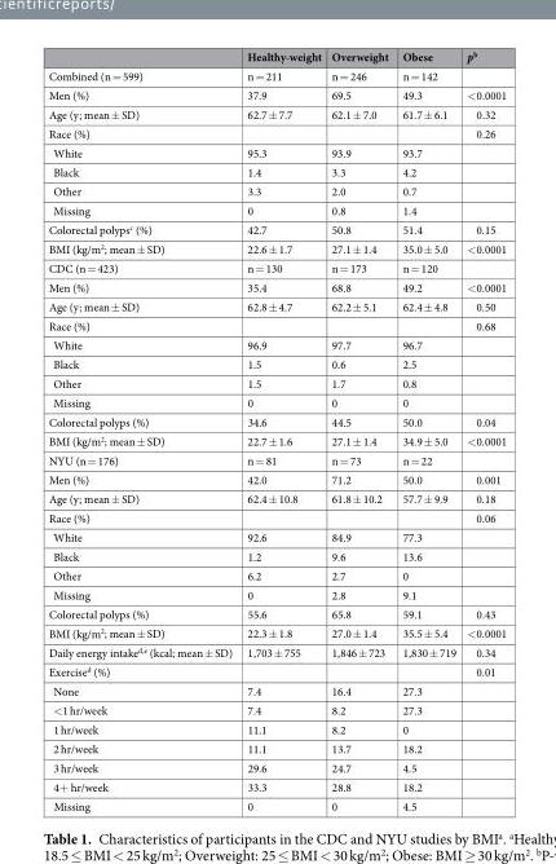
<table><thead><tr><td></td><td>Healthy-weight</td><td>Overweight</td><td>Obese</td><td>p<sup>b</sup></td></tr></thead><tbody><tr><td>Combined (n = 599)</td><td>n = 211</td><td>n = 246</td><td>n = 142</td><td></td></tr><tr><td>Men (%)</td><td>37.9</td><td>69.5</td><td>49.3</td><td>&lt;0.0001</td></tr><tr><td>Age (y; mean ± SD)</td><td>62.7 ± 7.7</td><td>62.1 ± 7.0</td><td>61.7 ± 6.1</td><td>0.32</td></tr><tr><td>Race (%)</td><td></td><td></td><td></td><td>0.26</td></tr><tr><td>White</td><td>95.3</td><td>93.9</td><td>93.7</td><td></td></tr><tr><td>Black</td><td>1.4</td><td>3.3</td><td>4.2</td><td></td></tr><tr><td>Other</td><td>3.3</td><td>2.0</td><td>0.7</td><td></td></tr><tr><td>Missing</td><td>0</td><td>0.8</td><td>1.4</td><td></td></tr><tr><td>Colorectal polyps<sup>c</sup> (%)</td><td>42.7</td><td>50.8</td><td>51.4</td><td>0.15</td></tr><tr><td>BMI (kg/m<sup>2</sup>; mean ± SD)</td><td>22.6 ± 1.7</td><td>27.1 ± 1.4</td><td>35.0 ± 5.0</td><td>&lt;0.0001</td></tr><tr><td>CDC (n = 423)</td><td>n = 130</td><td>n = 173</td><td>n = 120</td><td></td></tr><tr><td>Men (%)</td><td>35.4</td><td>68.8</td><td>49.2</td><td>&lt;0.0001</td></tr><tr><td>Age (y; mean ± SD)</td><td>62.8 ± 4.7</td><td>62.2 ± 5.1</td><td>62.4 ± 4.8</td><td>0.50</td></tr><tr><td>Race (%)</td><td></td><td></td><td></td><td>0.68</td></tr><tr><td>White</td><td>96.9</td><td>97.7</td><td>96.7</td><td></td></tr><tr><td>Black</td><td>1.5</td><td>0.6</td><td>2.5</td><td></td></tr><tr><td>Other</td><td>1.5</td><td>1.7</td><td>0.8</td><td></td></tr><tr><td>Missing</td><td>0</td><td>0</td><td>0</td><td></td></tr><tr><td>Colorectal polyps (%)</td><td>34.6</td><td>44.5</td><td>50.0</td><td>0.04</td></tr><tr><td>BMI (kg/m<sup>2</sup>; mean ± SD)</td><td>22.7 ± 1.6</td><td>27.1 ± 1.4</td><td>34.9 ± 5.0</td><td>&lt;0.0001</td></tr><tr><td>NYU (n = 176)</td><td>n = 81</td><td>n = 73</td><td>n = 22</td><td></td></tr><tr><td>Men (%)</td><td>42.0</td><td>71.2</td><td>50.0</td><td>0.001</td></tr><tr><td>Age (y; mean ± SD)</td><td>62.4 ± 10.8</td><td>61.8 ± 10.2</td><td>57.7 ± 9.9</td><td>0.18</td></tr><tr><td>Race (%)</td><td></td><td></td><td></td><td>0.06</td></tr><tr><td>White</td><td>92.6</td><td>84.9</td><td>77.3</td><td></td></tr><tr><td>Black</td><td>1.2</td><td>9.6</td><td>13.6</td><td></td></tr><tr><td>Other</td><td>6.2</td><td>2.7</td><td>0</td><td></td></tr><tr><td>Missing</td><td>0</td><td>2.8</td><td>9.1</td><td></td></tr><tr><td>Colorectal polyps (%)</td><td>55.6</td><td>65.8</td><td>59.1</td><td>0.43</td></tr><tr><td>BMI (kg/m<sup>2</sup>; mean ± SD)</td><td>22.3 ± 1.8</td><td>27.0 ± 1.4</td><td>35.5 ± 5.4</td><td>&lt;0.0001</td></tr><tr><td>Daily energy intake<sup>d,e</sup> (kcal; mean ± SD)</td><td>1,703 ± 755</td><td>1,846 ± 723</td><td>1,830 ± 719</td><td>0.34</td></tr><tr><td>Exercise<sup>d</sup> (%)</td><td></td><td></td><td></td><td>0.01</td></tr><tr><td>None</td><td>7.4</td><td>16.4</td><td>27.3</td><td></td></tr><tr><td>&lt;1 hr/week</td><td>7.4</td><td>8.2</td><td>27.3</td><td></td></tr><tr><td>1 hr/week</td><td>11.1</td><td>8.2</td><td>0</td><td></td></tr><tr><td>2 hr/week</td><td>11.1</td><td>13.7</td><td>18.2</td><td></td></tr><tr><td>3 hr/week</td><td>29.6</td><td>24.7</td><td>4.5</td><td></td></tr><tr><td>4+ hr/week</td><td>33.3</td><td>28.8</td><td>18.2</td><td></td></tr><tr><td>Missing</td><td>0</td><td>0</td><td>4.5</td><td></td></tr></tbody></table>